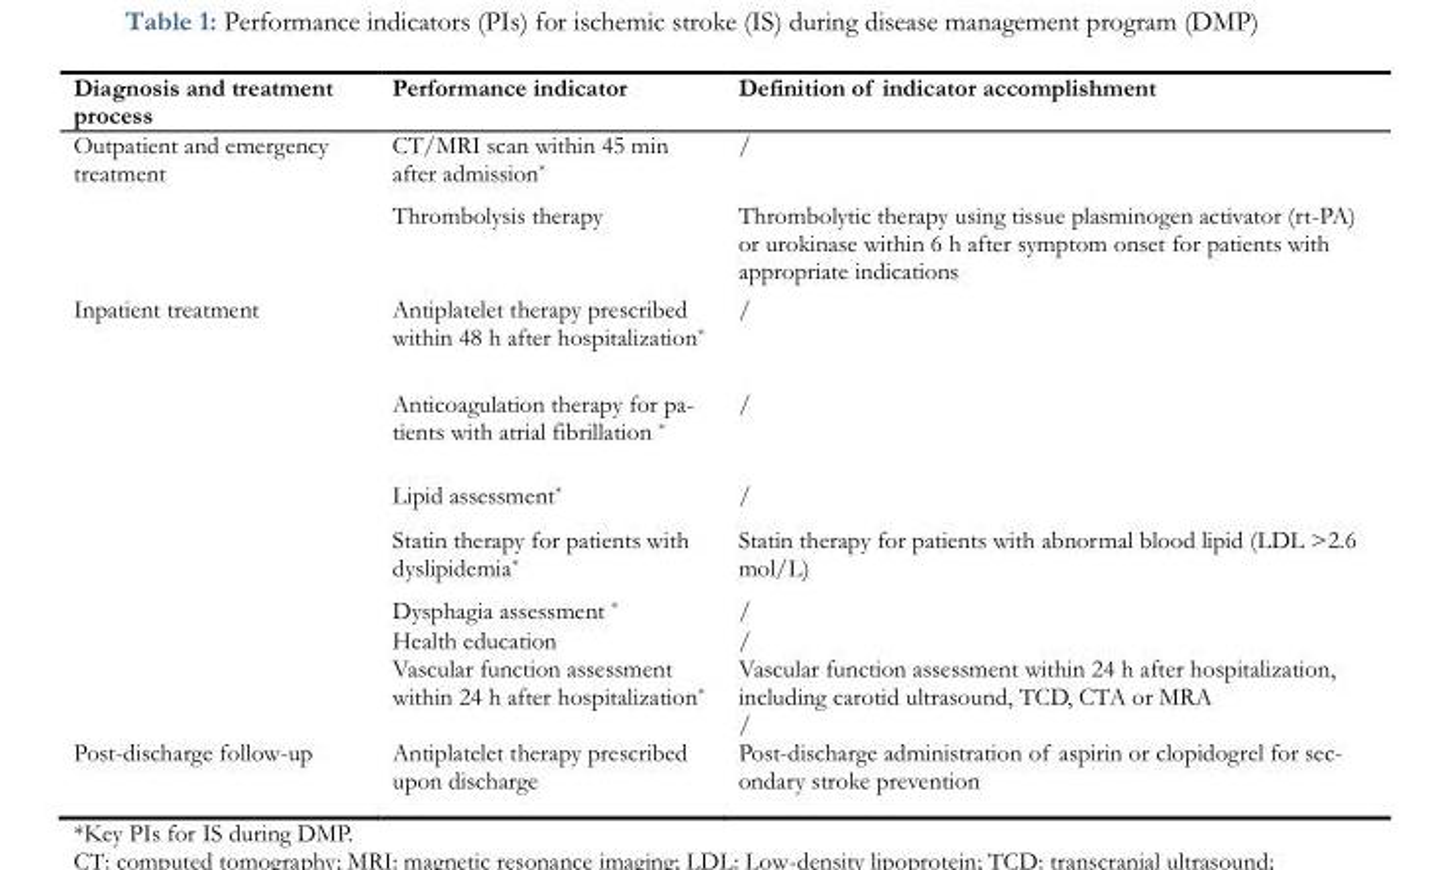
<table><thead><tr><td>Diagnosis and treatment process</td><td>Performance indicator</td><td>Definition of indicator accomplishment</td></tr></thead><tbody><tr><td rowspan="2">Outpatient and emergency treatment</td><td>CT/MRI scan within 45 min after admission*</td><td>/</td></tr><tr><td>Thrombolysis therapy</td><td>Thrombolytic therapy using tissue plasminogen activator (rt-PA) or urokinase within 6 h after symptom onset for patients with appropriate indications</td></tr><tr><td rowspan="8">Inpatient treatment</td><td>Antiplatelet therapy prescribed within 48 h after hospitalization*</td><td>/</td></tr><tr><td>Anticoagulation therapy for pa- tients with atrial fibrillation *</td><td>/</td></tr><tr><td>Lipid assessment*</td><td>/</td></tr><tr><td>Statin therapy for patients with dyslipidemia*</td><td>Statin therapy for patients with abnormal blood lipid (LDL &gt;2.6 mol/L)</td></tr><tr><td>Dysphagia assessment *</td><td>/</td></tr><tr><td>Health education</td><td>/</td></tr><tr><td rowspan="2">Vascular function assessment within 24 h after hospitalization*</td><td>Vascular function assessment within 24 h after hospitalization, including carotid ultrasound, TCD, CTA or MRA</td></tr><tr><td>/</td></tr><tr><td>Post-discharge follow-up</td><td>Antiplatelet therapy prescribed upon discharge</td><td>Post-discharge administration of aspirin or clopidogrel for sec- ondary stroke prevention</td></tr></tbody></table>